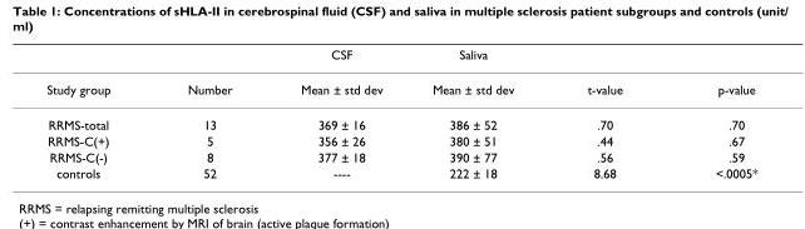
<table><thead><tr><td></td><td></td><td>CSF</td><td>Saliva</td><td></td><td></td></tr></thead><tbody><tr><td>Study group</td><td>Number</td><td>Mean ± std dev</td><td>Mean ± std dev</td><td>t-value</td><td>p-value</td></tr><tr><td>RRMS-total</td><td>13</td><td>369 ± 16</td><td>386 ± 52</td><td>.70</td><td>.70</td></tr><tr><td>RRMS-C(+)</td><td>5</td><td>356 ± 26</td><td>380 ± 51</td><td>.44</td><td>.67</td></tr><tr><td>RRMS-C(-)</td><td>8</td><td>377 ± 18</td><td>390 ± 77</td><td>.56</td><td>.59</td></tr><tr><td>controls</td><td>52</td><td>----</td><td>222 ± 18</td><td>8.68</td><td>&lt;.0005*</td></tr></tbody></table>